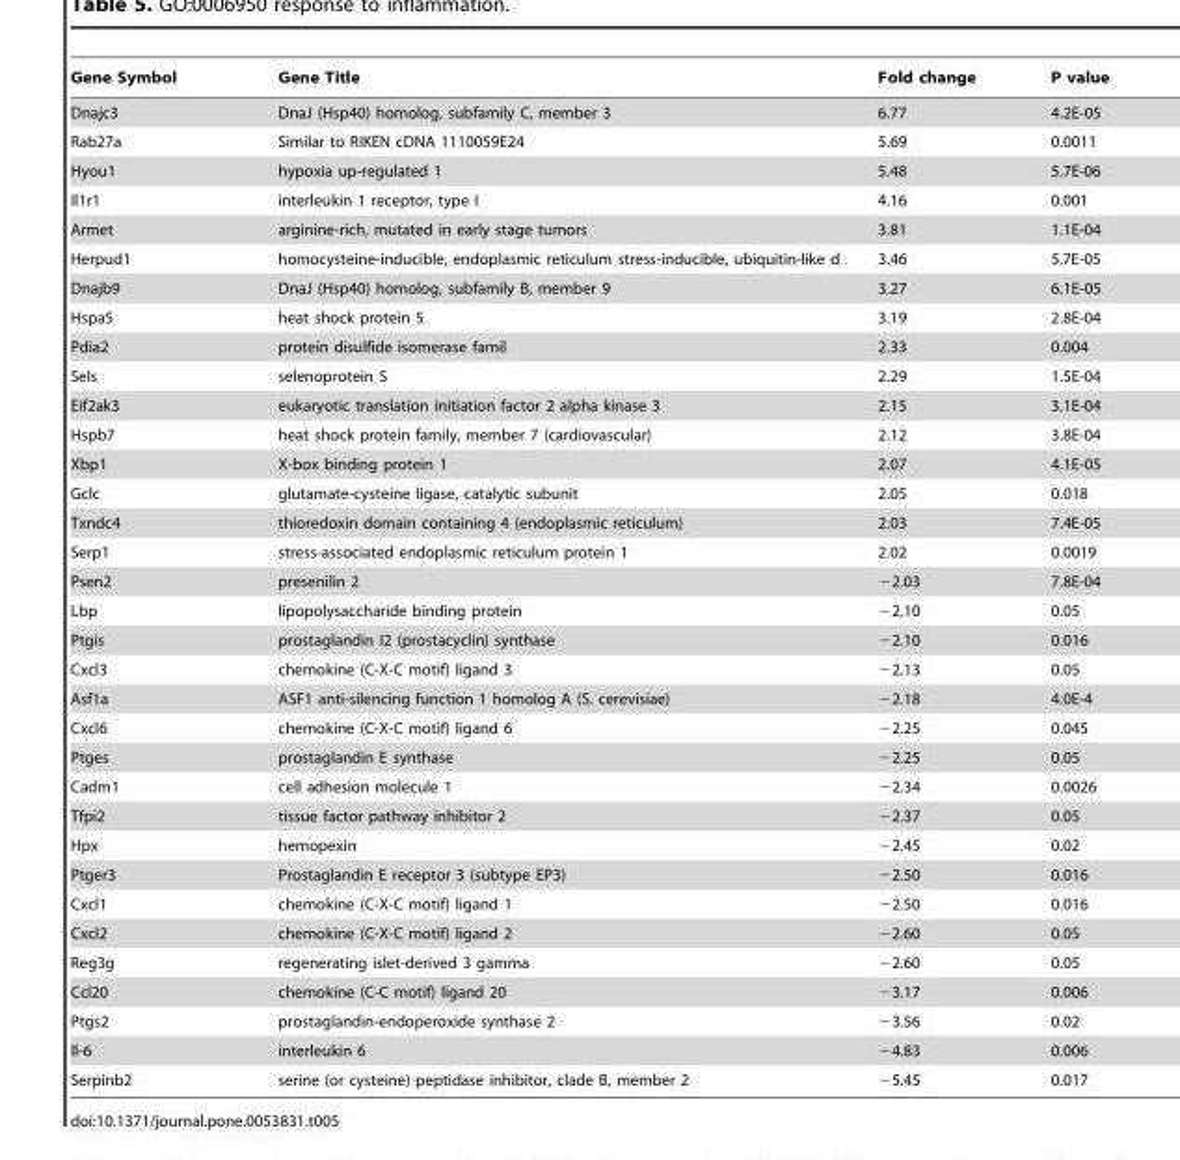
<table><thead><tr><td>Gene Symbol</td><td>Gene Title</td><td>Fold change</td><td>P value</td></tr></thead><tbody><tr><td>Dnajc3</td><td>DnaJ (Hsp40) homolog, subfamily C, member 3</td><td>6.77</td><td>4.2E-05</td></tr><tr><td>Rab27a</td><td>Similar to RIKEN cDNA 1110059E24</td><td>5.69</td><td>0.0011</td></tr><tr><td>Hyou1</td><td>hypoxia up-regulated 1</td><td>5.48</td><td>5.7E-06</td></tr><tr><td>Il1r1</td><td>interleukin 1 receptor, type I</td><td>4.16</td><td>0.001</td></tr><tr><td>Armet</td><td>arginine-rich, mutated in early stage tumors</td><td>3.81</td><td>1.1E-04</td></tr><tr><td>Herpud1</td><td>homocysteine-inducible, endoplasmic reticulum stress-inducible, ubiquitin-like d</td><td>3.46</td><td>5.7E-05</td></tr><tr><td>Dnajb9</td><td>DnaJ (Hsp40) homolog, subfamily B, member 9</td><td>3.27</td><td>6.1E-05</td></tr><tr><td>Hspa5</td><td>heat shock protein 5</td><td>3.19</td><td>2.8E-04</td></tr><tr><td>Pdia2</td><td>protein disulfide isomerase famil</td><td>2.33</td><td>0.004</td></tr><tr><td>Sels</td><td>selenoprotein S</td><td>2.29</td><td>1.5E-04</td></tr><tr><td>Eif2ak3</td><td>eukaryotic translation initiation factor 2 alpha kinase 3</td><td>2.15</td><td>3.1E-04</td></tr><tr><td>Hspb7</td><td>heat shock protein family, member 7 (cardiovascular)</td><td>2.12</td><td>3.8E-04</td></tr><tr><td>Xbp1</td><td>X-box binding protein 1</td><td>2.07</td><td>4.1E-05</td></tr><tr><td>Gclc</td><td>glutamate-cysteine ligase, catalytic subunit</td><td>2.05</td><td>0.018</td></tr><tr><td>Txndc4</td><td>thioredoxin domain containing 4 (endoplasmic reticulum)</td><td>2.03</td><td>7.4E-05</td></tr><tr><td>Serp1</td><td>stress-associated endoplasmic reticulum protein 1</td><td>2.02</td><td>0.0019</td></tr><tr><td>Psen2</td><td>presenilin 2</td><td>−2.03</td><td>7.8E-04</td></tr><tr><td>Lbp</td><td>lipopolysaccharide binding protein</td><td>−2.10</td><td>0.05</td></tr><tr><td>Ptgis</td><td>prostaglandin I2 (prostacyclin) synthase</td><td>−2.10</td><td>0.016</td></tr><tr><td>Cxcl3</td><td>chemokine (C-X-C motif) ligand 3</td><td>−2.13</td><td>0.05</td></tr><tr><td>Asf1a</td><td>ASF1 anti-silencing function 1 homolog A (S. cerevisiae)</td><td>−2.18</td><td>4.0E-4</td></tr><tr><td>Cxcl6</td><td>chemokine (C-X-C motif) ligand 6</td><td>−2.25</td><td>0.045</td></tr><tr><td>Ptges</td><td>prostaglandin E synthase</td><td>−2.25</td><td>0.05</td></tr><tr><td>Cadm1</td><td>cell adhesion molecule 1</td><td>−2.34</td><td>0.0026</td></tr><tr><td>Tfpi2</td><td>tissue factor pathway inhibitor 2</td><td>−2.37</td><td>0.05</td></tr><tr><td>Hpx</td><td>hemopexin</td><td>−2.45</td><td>0.02</td></tr><tr><td>Ptger3</td><td>Prostaglandin E receptor 3 (subtype EP3)</td><td>−2.50</td><td>0.016</td></tr><tr><td>Cxcl1</td><td>chemokine (C-X-C motif) ligand 1</td><td>−2.50</td><td>0.016</td></tr><tr><td>Cxcl2</td><td>chemokine (C-X-C motif) ligand 2</td><td>−2.60</td><td>0.05</td></tr><tr><td>Reg3g</td><td>regenerating islet-derived 3 gamma</td><td>−2.60</td><td>0.05</td></tr><tr><td>Ccl20</td><td>chemokine (C-C motif) ligand 20</td><td>−3.17</td><td>0.006</td></tr><tr><td>Ptgs2</td><td>prostaglandin-endoperoxide synthase 2</td><td>−3.56</td><td>0.02</td></tr><tr><td>Il-6</td><td>interleukin 6</td><td>−4.83</td><td>0.006</td></tr><tr><td>Serpinb2</td><td>serine (or cysteine) peptidase inhibitor, clade B, member 2</td><td>−5.45</td><td>0.017</td></tr></tbody></table>